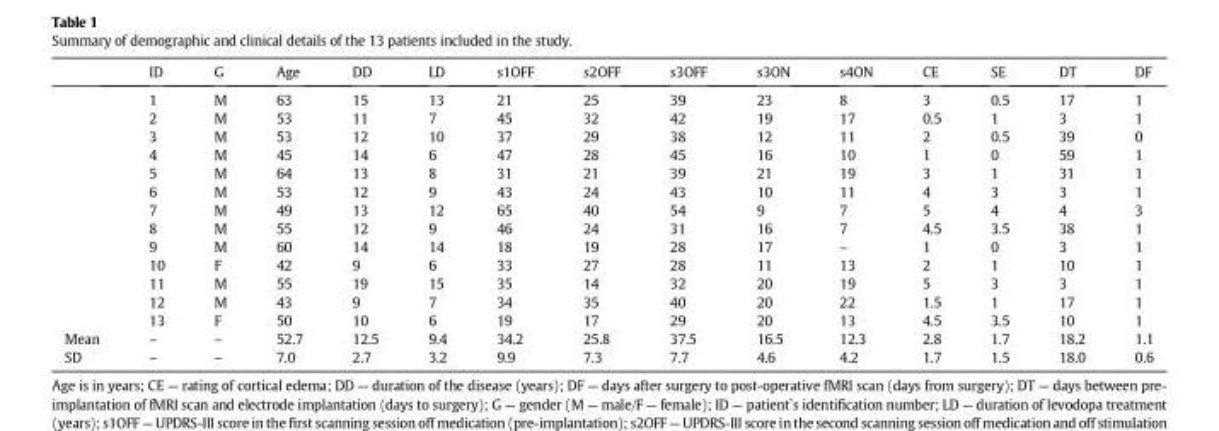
<table><thead><tr><td></td><td>ID</td><td>G</td><td>Age</td><td>DD</td><td>LD</td><td>s1OFF</td><td>s2OFF</td><td>s3OFF</td><td>s3ON</td><td>s4ON</td><td>CE</td><td>SE</td><td>DT</td><td>DF</td></tr></thead><tbody><tr><td></td><td>1</td><td>M</td><td>63</td><td>15</td><td>13</td><td>21</td><td>25</td><td>39</td><td>23</td><td>8</td><td>3</td><td>0.5</td><td>17</td><td>1</td></tr><tr><td></td><td>2</td><td>M</td><td>53</td><td>11</td><td>7</td><td>45</td><td>32</td><td>42</td><td>19</td><td>17</td><td>0.5</td><td>1</td><td>3</td><td>1</td></tr><tr><td></td><td>3</td><td>M</td><td>53</td><td>12</td><td>10</td><td>37</td><td>29</td><td>38</td><td>12</td><td>11</td><td>2</td><td>0.5</td><td>39</td><td>0</td></tr><tr><td></td><td>4</td><td>M</td><td>45</td><td>14</td><td>6</td><td>47</td><td>28</td><td>45</td><td>16</td><td>10</td><td>1</td><td>0</td><td>59</td><td>1</td></tr><tr><td></td><td>5</td><td>M</td><td>64</td><td>13</td><td>8</td><td>31</td><td>21</td><td>39</td><td>21</td><td>19</td><td>3</td><td>1</td><td>31</td><td>1</td></tr><tr><td></td><td>6</td><td>M</td><td>53</td><td>12</td><td>9</td><td>43</td><td>24</td><td>43</td><td>10</td><td>11</td><td>4</td><td>3</td><td>3</td><td>1</td></tr><tr><td></td><td>7</td><td>M</td><td>49</td><td>13</td><td>12</td><td>65</td><td>40</td><td>54</td><td>9</td><td>7</td><td>5</td><td>4</td><td>4</td><td>3</td></tr><tr><td></td><td>8</td><td>M</td><td>55</td><td>12</td><td>9</td><td>46</td><td>24</td><td>31</td><td>16</td><td>7</td><td>4.5</td><td>3.5</td><td>38</td><td>1</td></tr><tr><td></td><td>9</td><td>M</td><td>60</td><td>14</td><td>14</td><td>18</td><td>19</td><td>28</td><td>17</td><td>–</td><td>1</td><td>0</td><td>3</td><td>1</td></tr><tr><td></td><td>10</td><td>F</td><td>42</td><td>9</td><td>6</td><td>33</td><td>27</td><td>28</td><td>11</td><td>13</td><td>2</td><td>1</td><td>10</td><td>1</td></tr><tr><td></td><td>11</td><td>M</td><td>55</td><td>19</td><td>15</td><td>35</td><td>14</td><td>32</td><td>20</td><td>19</td><td>5</td><td>3</td><td>3</td><td>1</td></tr><tr><td></td><td>12</td><td>M</td><td>43</td><td>9</td><td>7</td><td>34</td><td>35</td><td>40</td><td>20</td><td>22</td><td>1.5</td><td>1</td><td>17</td><td>1</td></tr><tr><td></td><td>13</td><td>F</td><td>50</td><td>10</td><td>6</td><td>19</td><td>17</td><td>29</td><td>20</td><td>13</td><td>4.5</td><td>3.5</td><td>10</td><td>1</td></tr><tr><td>Mean</td><td>–</td><td>–</td><td>52.7</td><td>12.5</td><td>9.4</td><td>34.2</td><td>25.8</td><td>37.5</td><td>16.5</td><td>12.3</td><td>2.8</td><td>1.7</td><td>18.2</td><td>1.1</td></tr><tr><td>SD</td><td>–</td><td>–</td><td>7.0</td><td>2.7</td><td>3.2</td><td>9.9</td><td>7.3</td><td>7.7</td><td>4.6</td><td>4.2</td><td>1.7</td><td>1.5</td><td>18.0</td><td>0.6</td></tr></tbody></table>